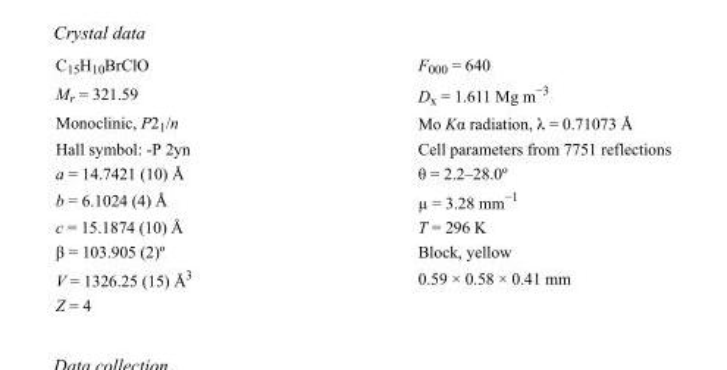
<table><tbody><tr><td>C<sub>15</sub>H<sub>10</sub>BrClO</td><td>F000 = 640</td></tr><tr><td>M<sub>r</sub> = 321.59</td><td>D<sub>x</sub> = 1.611 Mg m<sup>−3</sup></td></tr><tr><td>Monoclinic, P2<sub>1</sub>/n</td><td>Mo Kα radiation, λ = 0.71073 Å</td></tr><tr><td>Hall symbol: -P 2yn</td><td>Cell parameters from 7751 reflections</td></tr><tr><td>a = 14.7421 (10) Å</td><td>θ = 2.2–28.0º</td></tr><tr><td>b = 6.1024 (4) Å</td><td>µ = 3.28 mm<sup>−1</sup></td></tr><tr><td>c = 15.1874 (10) Å</td><td>T = 296 K</td></tr><tr><td>β = 103.905 (2)º</td><td>Block, yellow</td></tr><tr><td>V = 1326.25 (15) Å<sup>3</sup></td><td>0.59 × 0.58 × 0.41 mm</td></tr><tr><td>Z = 4</td><td></td></tr></tbody></table>